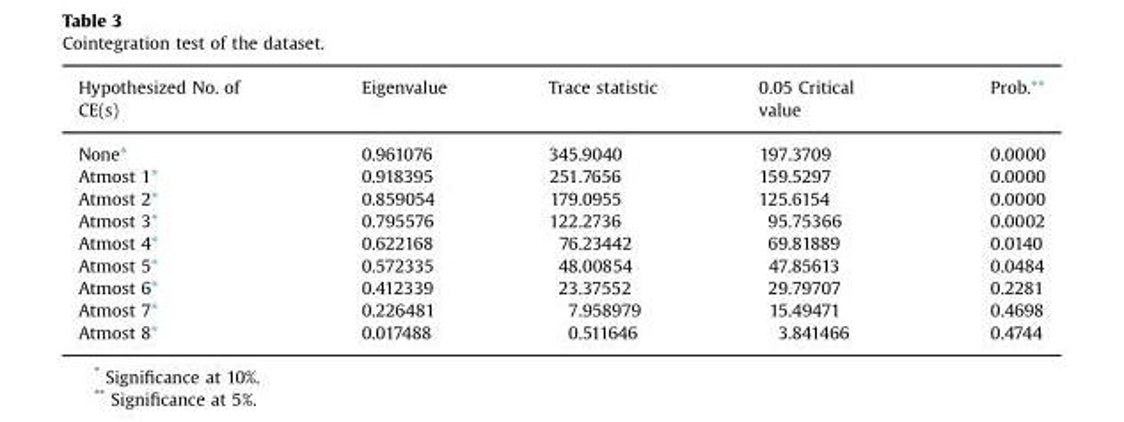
<table><thead><tr><td>Hypothesized No. of CE(s)</td><td>Eigenvalue</td><td>Trace statistic</td><td>0.05 Critical value</td><td>Prob.**</td></tr></thead><tbody><tr><td>None*</td><td>0.961076</td><td>345.9040</td><td>197.3709</td><td>0.0000</td></tr><tr><td>Atmost 1*</td><td>0.918395</td><td>251.7656</td><td>159.5297</td><td>0.0000</td></tr><tr><td>Atmost 2*</td><td>0.859054</td><td>179.0955</td><td>125.6154</td><td>0.0000</td></tr><tr><td>Atmost 3*</td><td>0.795576</td><td>122.2736</td><td>95.75366</td><td>0.0002</td></tr><tr><td>Atmost 4*</td><td>0.622168</td><td>76.23442</td><td>69.81889</td><td>0.0140</td></tr><tr><td>Atmost 5*</td><td>0.572335</td><td>48.00854</td><td>47.85613</td><td>0.0484</td></tr><tr><td>Atmost 6*</td><td>0.412339</td><td>23.37552</td><td>29.79707</td><td>0.2281</td></tr><tr><td>Atmost 7*</td><td>0.226481</td><td>7.958979</td><td>15.49471</td><td>0.4698</td></tr><tr><td>Atmost 8*</td><td>0.017488</td><td>0.511646</td><td>3.841466</td><td>0.4744</td></tr></tbody></table>